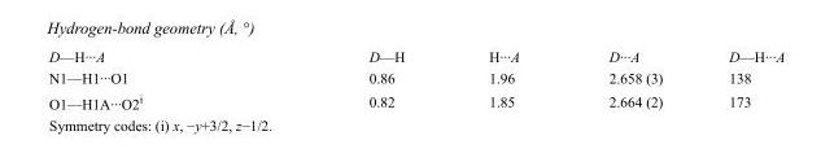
<table><tbody><tr><td>D—H···A</td><td>D—H</td><td>H···A</td><td>D···A</td><td>D—H···A</td></tr><tr><td>N1—H1···O1</td><td>0.86</td><td>1.96</td><td>2.658 (3)</td><td>138</td></tr><tr><td>O1—H1A···O2<sup>i</sup></td><td>0.82</td><td>1.85</td><td>2.664 (2)</td><td>173</td></tr></tbody></table>